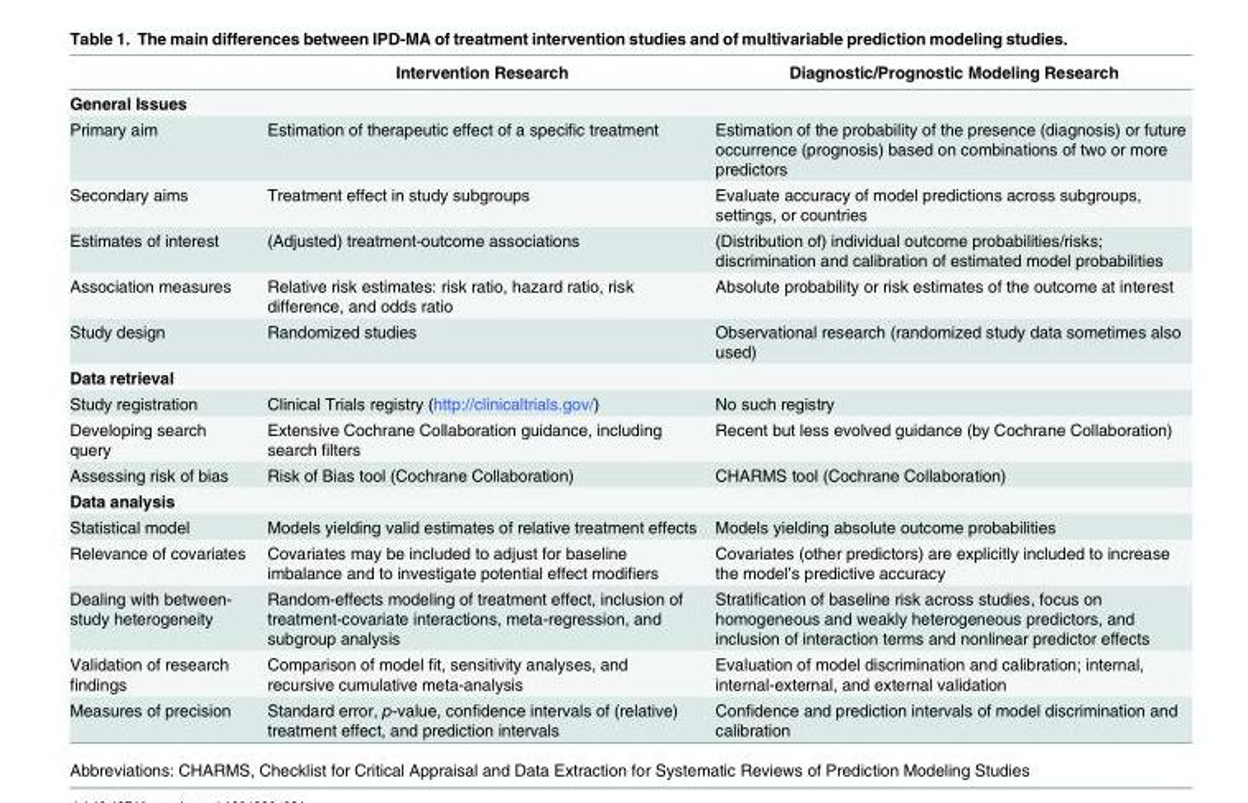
<table><thead><tr><td></td><td>Intervention Research</td><td>Diagnostic/Prognostic Modeling Research</td></tr></thead><tbody><tr><td colspan="3">General Issues</td></tr><tr><td>Primary aim</td><td>Estimation of therapeutic effect of a specific treatment</td><td>Estimation of the probability of the presence (diagnosis) or future occurrence (prognosis) based on combinations of two or more predictors</td></tr><tr><td>Secondary aims</td><td>Treatment effect in study subgroups</td><td>Evaluate accuracy of model predictions across subgroups, settings, or countries</td></tr><tr><td>Estimates of interest</td><td>(Adjusted) treatment-outcome associations</td><td>(Distribution of) individual outcome probabilities/risks; discrimination and calibration of estimated model probabilities</td></tr><tr><td>Association measures</td><td>Relative risk estimates: risk ratio, hazard ratio, risk difference, and odds ratio</td><td>Absolute probability or risk estimates of the outcome at interest</td></tr><tr><td>Study design</td><td>Randomized studies</td><td>Observational research (randomized study data sometimes also used)</td></tr><tr><td colspan="3">Data retrieval</td></tr><tr><td>Study registration</td><td>Clinical Trials registry (http://clinicaltrials.gov/)</td><td>No such registry</td></tr><tr><td>Developing search query</td><td>Extensive Cochrane Collaboration guidance, including search filters</td><td>Recent but less evolved guidance (by Cochrane Collaboration)</td></tr><tr><td>Assessing risk of bias</td><td>Risk of Bias tool (Cochrane Collaboration)</td><td>CHARMS tool (Cochrane Collaboration)</td></tr><tr><td colspan="3">Data analysis</td></tr><tr><td>Statistical model</td><td>Models yielding valid estimates of relative treatment effects</td><td>Models yielding absolute outcome probabilities</td></tr><tr><td>Relevance of covariates</td><td>Covariates may be included to adjust for baseline imbalance and to investigate potential effect modifiers</td><td>Covariates (other predictors) are explicitly included to increase the model’s predictive accuracy</td></tr><tr><td>Dealing with between- study heterogeneity</td><td>Random-effects modeling of treatment effect, inclusion of treatment-covariate interactions, meta-regression, and subgroup analysis</td><td>Stratification of baseline risk across studies, focus on homogeneous and weakly heterogeneous predictors, and inclusion of interaction terms and nonlinear predictor effects</td></tr><tr><td>Validation of research findings</td><td>Comparison of model fit, sensitivity analyses, and recursive cumulative meta-analysis</td><td>Evaluation of model discrimination and calibration; internal, internal-external, and external validation</td></tr><tr><td>Measures of precision</td><td>Standard error, p-value, confidence intervals of (relative) treatment effect, and prediction intervals</td><td>Confidence and prediction intervals of model discrimination and calibration</td></tr></tbody></table>